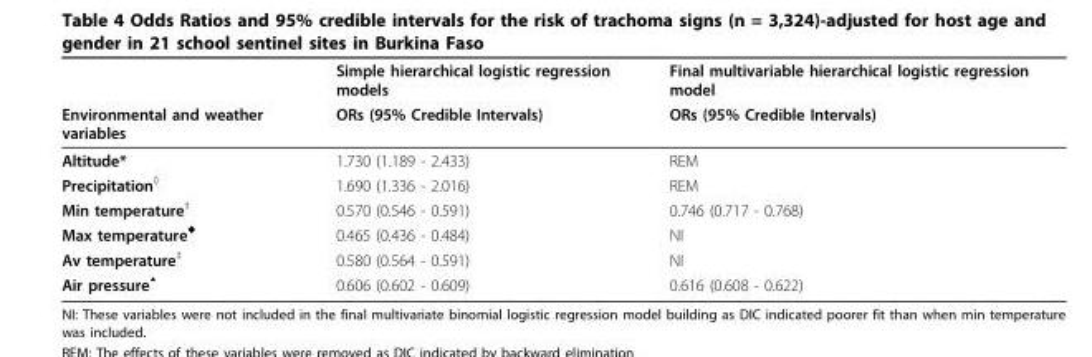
<table><thead><tr><td rowspan="2">Environmental and weather variables</td><td rowspan="2">Simple hierarchical logistic regression models ORs (95% Credible Intervals)</td><td rowspan="2">Final multivariable hierarchical logistic regression model ORs (95% Credible Intervals)</td></tr><tr></tr></thead><tbody><tr><td>Altitude*</td><td>1.730 (1.189 - 2.433)</td><td>REM</td></tr><tr><td>Precipitation<sup>◊</sup></td><td>1.690 (1.336 - 2.016)</td><td>REM</td></tr><tr><td>Min temperature<sup>‡</sup></td><td>0.570 (0.546 - 0.591)</td><td>0.746 (0.717 - 0.768)</td></tr><tr><td>Max temperature<sup>♦</sup></td><td>0.465 (0.436 - 0.484)</td><td>NI</td></tr><tr><td>Av temperature<sup>‡</sup></td><td>0.580 (0.564 - 0.591)</td><td>NI</td></tr><tr><td>Air pressure<sup>▲</sup></td><td>0.606 (0.602 - 0.609)</td><td>0.616 (0.608 - 0.622)</td></tr></tbody></table>